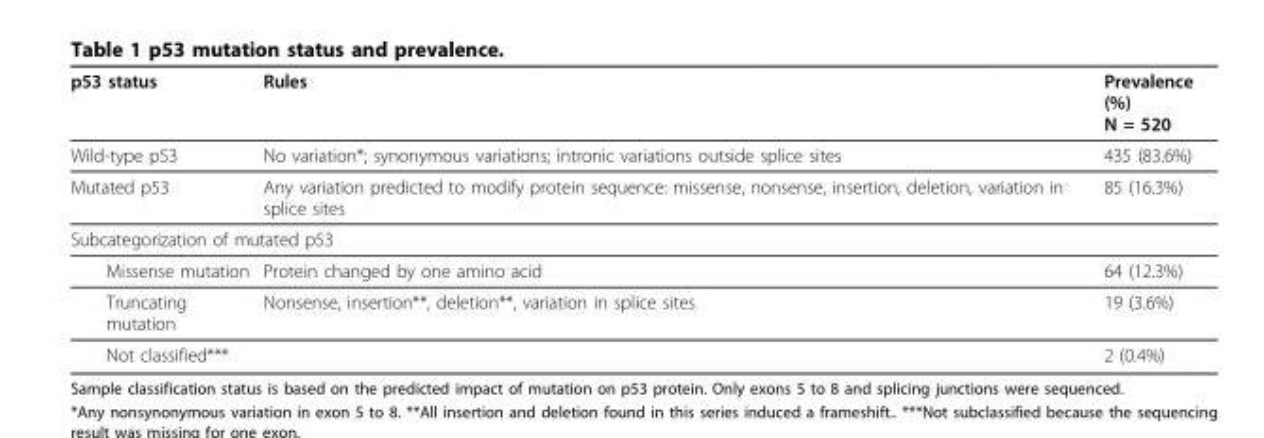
<table><thead><tr><td>p53 status</td><td>Rules</td><td>Prevalence (%) N = 520</td></tr></thead><tbody><tr><td>Wild-type p53</td><td>No variation*; synonymous variations; intronic variations outside splice sites</td><td>435 (83.6%)</td></tr><tr><td>Mutated p53</td><td>Any variation predicted to modify protein sequence: missense, nonsense, insertion, deletion, variation in splice sites</td><td>85 (16.3%)</td></tr><tr><td colspan="3">Subcategorization of mutated p53</td></tr><tr><td>Missense mutation</td><td>Protein changed by one amino acid</td><td>64 (12.3%)</td></tr><tr><td>Truncating mutation</td><td>Nonsense, insertion**, deletion**, variation in splice sites</td><td>19 (3.6%)</td></tr><tr><td>Not classified***</td><td></td><td>2 (0.4%)</td></tr></tbody></table>